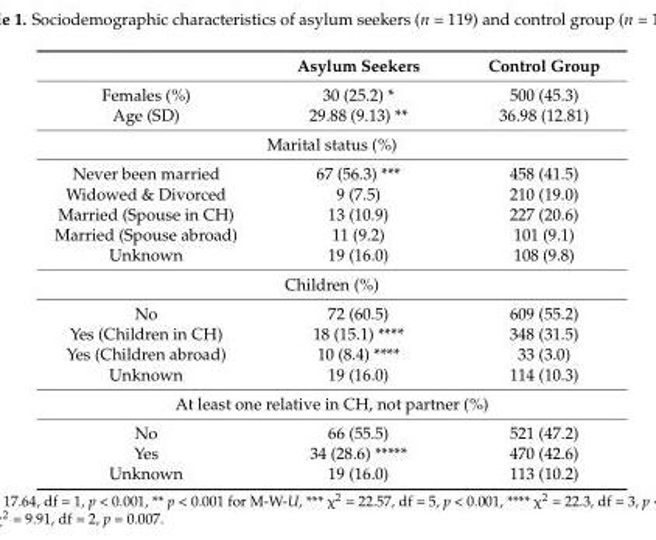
<table><thead><tr><td></td><td>Asylum Seekers</td><td>Control Group</td></tr></thead><tbody><tr><td>Females (%)</td><td>30 (25.2) *</td><td>500 (45.3)</td></tr><tr><td>Age (SD)</td><td>29.88 (9.13) **</td><td>36.98 (12.81)</td></tr><tr><td colspan="3">Marital status (%)</td></tr><tr><td>Never been married</td><td>67 (56.3) ***</td><td>458 (41.5)</td></tr><tr><td>Widowed &amp; Divorced</td><td>9 (7.5)</td><td>210 (19.0)</td></tr><tr><td>Married (Spouse in CH)</td><td>13 (10.9)</td><td>227 (20.6)</td></tr><tr><td>Married (Spouse abroad)</td><td>11 (9.2)</td><td>101 (9.1)</td></tr><tr><td>Unknown</td><td>19 (16.0)</td><td>108 (9.8)</td></tr><tr><td colspan="3">Children (%)</td></tr><tr><td>No</td><td>72 (60.5)</td><td>609 (55.2)</td></tr><tr><td>Yes (Children in CH)</td><td>18 (15.1) ****</td><td>348 (31.5)</td></tr><tr><td>Yes (Children abroad)</td><td>10 (8.4) ****</td><td>33 (3.0)</td></tr><tr><td>Unknown</td><td>19 (16.0)</td><td>114 (10.3)</td></tr><tr><td colspan="3">At least one relative in CH, not partner (%)</td></tr><tr><td>No</td><td>66 (55.5)</td><td>521 (47.2)</td></tr><tr><td>Yes</td><td>34 (28.6) *****</td><td>470 (42.6)</td></tr><tr><td>Unknown</td><td>19 (16.0)</td><td>113 (10.2)</td></tr></tbody></table>